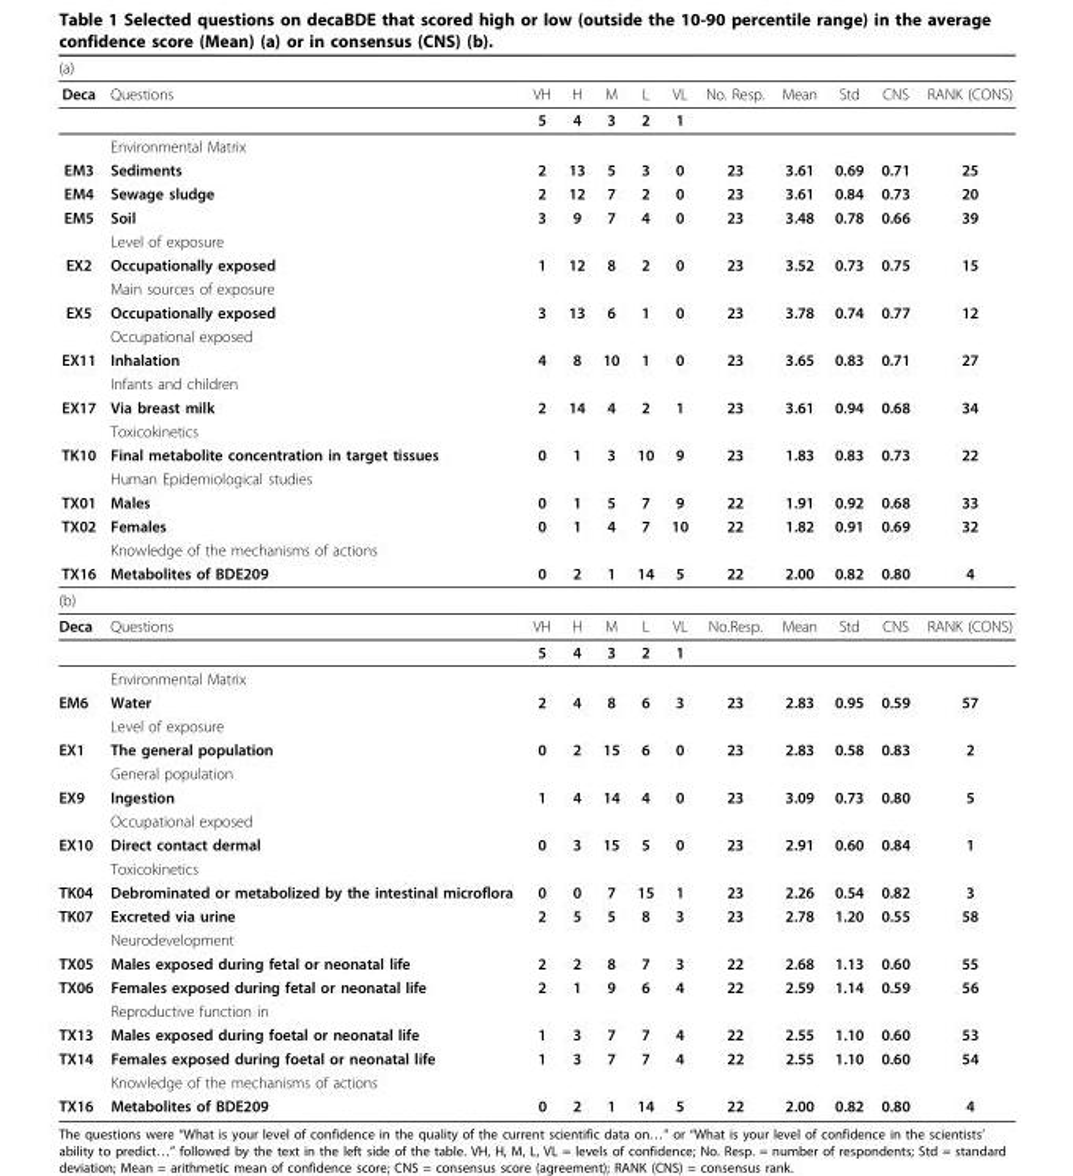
<table><thead><tr><td colspan="12">(a)</td></tr><tr><td>Deca</td><td>Questions</td><td>VH</td><td>H</td><td>M</td><td>L</td><td>VL</td><td>No. Resp.</td><td>Mean</td><td>Std</td><td>CNS</td><td>RANK (CONS)</td></tr></thead><tbody><tr><td></td><td></td><td>5</td><td>4</td><td>3</td><td>2</td><td>1</td><td></td><td></td><td></td><td></td><td></td></tr><tr><td></td><td>Environmental Matrix</td><td></td><td></td><td></td><td></td><td></td><td></td><td></td><td></td><td></td><td></td></tr><tr><td>EM3</td><td>Sediments</td><td>2</td><td>13</td><td>5</td><td>3</td><td>0</td><td>23</td><td>3.61</td><td>0.69</td><td>0.71</td><td>25</td></tr><tr><td>EM4</td><td>Sewage sludge</td><td>2</td><td>12</td><td>7</td><td>2</td><td>0</td><td>23</td><td>3.61</td><td>0.84</td><td>0.73</td><td>20</td></tr><tr><td rowspan="2">EM5</td><td>Soil</td><td>3</td><td>9</td><td>7</td><td>4</td><td>0</td><td>23</td><td>3.48</td><td>0.78</td><td>0.66</td><td>39</td></tr><tr><td>Level of exposure</td><td></td><td></td><td></td><td></td><td></td><td></td><td></td><td></td><td></td><td></td></tr><tr><td rowspan="2">EX2</td><td>Occupationally exposed</td><td>1</td><td>12</td><td>8</td><td>2</td><td>0</td><td>23</td><td>3.52</td><td>0.73</td><td>0.75</td><td>15</td></tr><tr><td>Main sources of exposure</td><td></td><td></td><td></td><td></td><td></td><td></td><td></td><td></td><td></td><td></td></tr><tr><td rowspan="2">EX5</td><td>Occupationally exposed</td><td>3</td><td>13</td><td>6</td><td>1</td><td>0</td><td>23</td><td>3.78</td><td>0.74</td><td>0.77</td><td>12</td></tr><tr><td>Occupational exposed</td><td></td><td></td><td></td><td></td><td></td><td></td><td></td><td></td><td></td><td></td></tr><tr><td rowspan="2">EX11</td><td>Inhalation</td><td>4</td><td>8</td><td>10</td><td>1</td><td>0</td><td>23</td><td>3.65</td><td>0.83</td><td>0.71</td><td>27</td></tr><tr><td>Infants and children</td><td></td><td></td><td></td><td></td><td></td><td></td><td></td><td></td><td></td><td></td></tr><tr><td rowspan="2">EX17</td><td>Via breast milk</td><td>2</td><td>14</td><td>4</td><td>2</td><td>1</td><td>23</td><td>3.61</td><td>0.94</td><td>0.68</td><td>34</td></tr><tr><td>Toxicokinetics</td><td></td><td></td><td></td><td></td><td></td><td></td><td></td><td></td><td></td><td></td></tr><tr><td rowspan="2">TK10</td><td>Final metabolite concentration in target tissues</td><td>0</td><td>1</td><td>3</td><td>10</td><td>9</td><td>23</td><td>1.83</td><td>0.83</td><td>0.73</td><td>22</td></tr><tr><td>Human Epidemiological studies</td><td></td><td></td><td></td><td></td><td></td><td></td><td></td><td></td><td></td><td></td></tr><tr><td>TX01</td><td>Males</td><td>0</td><td>1</td><td>5</td><td>7</td><td>9</td><td>22</td><td>1.91</td><td>0.92</td><td>0.68</td><td>33</td></tr><tr><td rowspan="2">TX02</td><td>Females</td><td>0</td><td>1</td><td>4</td><td>7</td><td>10</td><td>22</td><td>1.82</td><td>0.91</td><td>0.69</td><td>32</td></tr><tr><td>Knowledge of the mechanisms of actions</td><td></td><td></td><td></td><td></td><td></td><td></td><td></td><td></td><td></td><td></td></tr><tr><td>TX16</td><td>Metabolites of BDE209</td><td>0</td><td>2</td><td>1</td><td>14</td><td>5</td><td>22</td><td>2.00</td><td>0.82</td><td>0.80</td><td>4</td></tr><tr><td colspan="12">(b)</td></tr><tr><td rowspan="3">Deca</td><td>Questions</td><td>VH</td><td>H</td><td>M</td><td>L</td><td>VL</td><td>No.Resp.</td><td>Mean</td><td>Std</td><td>CNS</td><td>RANK (CONS)</td></tr><tr><td></td><td>5</td><td>4</td><td>3</td><td>2</td><td>1</td><td></td><td></td><td></td><td></td><td></td></tr><tr><td>Environmental Matrix</td><td></td><td></td><td></td><td></td><td></td><td></td><td></td><td></td><td></td><td></td></tr><tr><td rowspan="2">EM6</td><td>Water</td><td>2</td><td>4</td><td>8</td><td>6</td><td>3</td><td>23</td><td>2.83</td><td>0.95</td><td>0.59</td><td>57</td></tr><tr><td>Level of exposure</td><td></td><td></td><td></td><td></td><td></td><td></td><td></td><td></td><td></td><td></td></tr><tr><td rowspan="2">EX1</td><td>The general population</td><td>0</td><td>2</td><td>15</td><td>6</td><td>0</td><td>23</td><td>2.83</td><td>0.58</td><td>0.83</td><td>2</td></tr><tr><td>General population</td><td></td><td></td><td></td><td></td><td></td><td></td><td></td><td></td><td></td><td></td></tr><tr><td rowspan="2">EX9</td><td>Ingestion</td><td>1</td><td>4</td><td>14</td><td>4</td><td>0</td><td>23</td><td>3.09</td><td>0.73</td><td>0.80</td><td>5</td></tr><tr><td>Occupational exposed</td><td></td><td></td><td></td><td></td><td></td><td></td><td></td><td></td><td></td><td></td></tr><tr><td rowspan="2">EX10</td><td>Direct contact dermal</td><td>0</td><td>3</td><td>15</td><td>5</td><td>0</td><td>23</td><td>2.91</td><td>0.60</td><td>0.84</td><td>1</td></tr><tr><td>Toxicokinetics</td><td></td><td></td><td></td><td></td><td></td><td></td><td></td><td></td><td></td><td></td></tr><tr><td>TK04</td><td>Debrominated or metabolized by the intestinal microflora</td><td>0</td><td>0</td><td>7</td><td>15</td><td>1</td><td>23</td><td>2.26</td><td>0.54</td><td>0.82</td><td>3</td></tr><tr><td rowspan="2">TK07</td><td>Excreted via urine</td><td>2</td><td>5</td><td>5</td><td>8</td><td>3</td><td>23</td><td>2.78</td><td>1.20</td><td>0.55</td><td>58</td></tr><tr><td>Neurodevelopment</td><td></td><td></td><td></td><td></td><td></td><td></td><td></td><td></td><td></td><td></td></tr><tr><td>TX05</td><td>Males exposed during fetal or neonatal life</td><td>2</td><td>2</td><td>8</td><td>7</td><td>3</td><td>22</td><td>2.68</td><td>1.13</td><td>0.60</td><td>55</td></tr><tr><td rowspan="2">TX06</td><td>Females exposed during fetal or neonatal life</td><td>2</td><td>1</td><td>9</td><td>6</td><td>4</td><td>22</td><td>2.59</td><td>1.14</td><td>0.59</td><td>56</td></tr><tr><td>Reproductive function in</td><td></td><td></td><td></td><td></td><td></td><td></td><td></td><td></td><td></td><td></td></tr><tr><td>TX13</td><td>Males exposed during foetal or neonatal life</td><td>1</td><td>3</td><td>7</td><td>7</td><td>4</td><td>22</td><td>2.55</td><td>1.10</td><td>0.60</td><td>53</td></tr><tr><td rowspan="2">TX14</td><td>Females exposed during foetal or neonatal life</td><td>1</td><td>3</td><td>7</td><td>7</td><td>4</td><td>22</td><td>2.55</td><td>1.10</td><td>0.60</td><td>54</td></tr><tr><td>Knowledge of the mechanisms of actions</td><td></td><td></td><td></td><td></td><td></td><td></td><td></td><td></td><td></td><td></td></tr><tr><td>TX16</td><td>Metabolites of BDE209</td><td>0</td><td>2</td><td>1</td><td>14</td><td>5</td><td>22</td><td>2.00</td><td>0.82</td><td>0.80</td><td>4</td></tr></tbody></table>